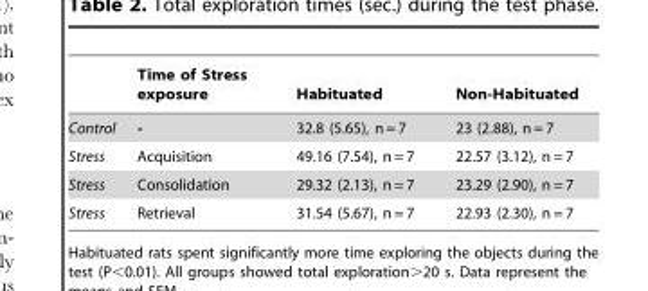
<table><thead><tr><td></td><td>Time of Stress exposure</td><td>Habituated</td><td>Non-Habituated</td></tr></thead><tbody><tr><td>Control</td><td>-</td><td>32.8 (5.65), n = 7</td><td>23 (2.88), n = 7</td></tr><tr><td>Stress</td><td>Acquisition</td><td>49.16 (7.54), n = 7</td><td>22.57 (3.12), n = 7</td></tr><tr><td>Stress</td><td>Consolidation</td><td>29.32 (2.13), n = 7</td><td>23.29 (2.90), n = 7</td></tr><tr><td>Stress</td><td>Retrieval</td><td>31.54 (5.67), n = 7</td><td>22.93 (2.30), n = 7</td></tr></tbody></table>